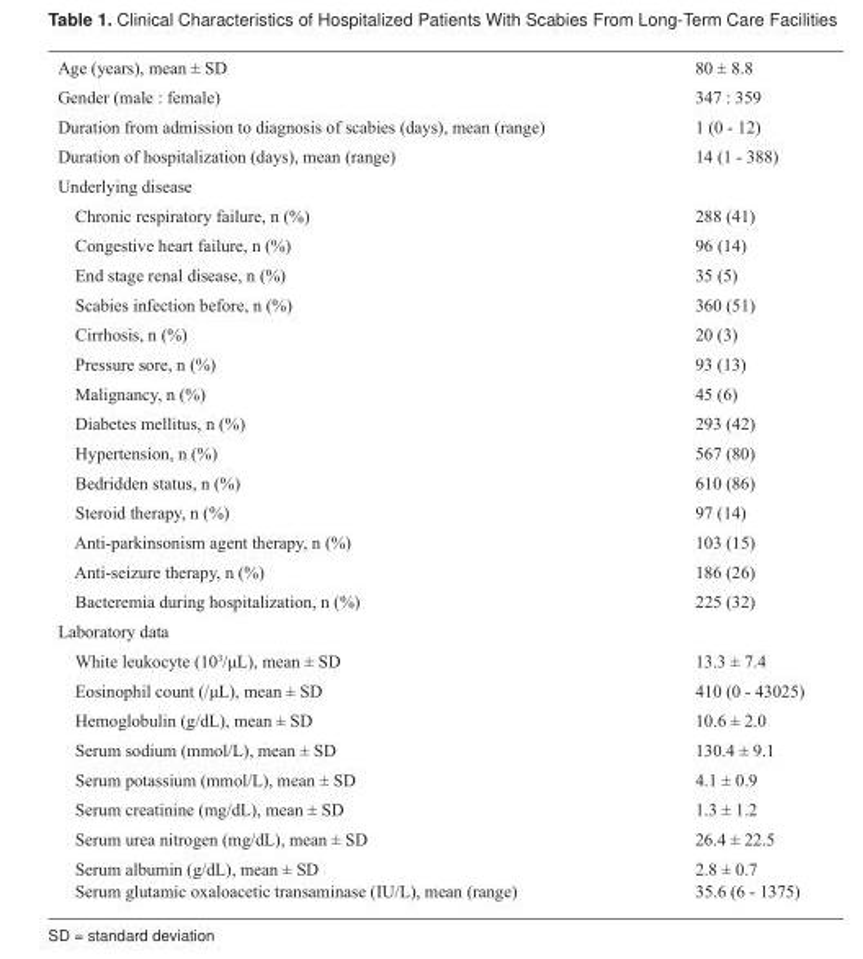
<table><tbody><tr><td>Age (years), mean ± SD</td><td>80 ± 8.8</td></tr><tr><td>Gender (male : female)</td><td>347 : 359</td></tr><tr><td>Duration from admission to diagnosis of scabies (days), mean (range)</td><td>1 (0 - 12)</td></tr><tr><td>Duration of hospitalization (days), mean (range)</td><td>14 (1 - 388)</td></tr><tr><td colspan="2">Underlying disease</td></tr><tr><td>Chronic respiratory failure, n (%)</td><td>288 (41)</td></tr><tr><td>Congestive heart failure, n (%)</td><td>96 (14)</td></tr><tr><td>End stage renal disease, n (%)</td><td>35 (5)</td></tr><tr><td>Scabies infection before, n (%)</td><td>360 (51)</td></tr><tr><td>Cirrhosis, n (%)</td><td>20 (3)</td></tr><tr><td>Pressure sore, n (%)</td><td>93 (13)</td></tr><tr><td>Malignancy, n (%)</td><td>45 (6)</td></tr><tr><td>Diabetes mellitus, n (%)</td><td>293 (42)</td></tr><tr><td>Hypertension, n (%)</td><td>567 (80)</td></tr><tr><td>Bedridden status, n (%)</td><td>610 (86)</td></tr><tr><td>Steroid therapy, n (%)</td><td>97 (14)</td></tr><tr><td>Anti-parkinsonism agent therapy, n (%)</td><td>103 (15)</td></tr><tr><td>Anti-seizure therapy, n (%)</td><td>186 (26)</td></tr><tr><td>Bacteremia during hospitalization, n (%)</td><td>225 (32)</td></tr><tr><td colspan="2">Laboratory data</td></tr><tr><td>White leukocyte (10<sup>3</sup>/μL), mean ± SD</td><td>13.3 ± 7.4</td></tr><tr><td>Eosinophil count (/μL), mean ± SD</td><td>410 (0 - 43025)</td></tr><tr><td>Hemoglobulin (g/dL), mean ± SD</td><td>10.6 ± 2.0</td></tr><tr><td>Serum sodium (mmol/L), mean ± SD</td><td>130.4 ± 9.1</td></tr><tr><td>Serum potassium (mmol/L), mean ± SD</td><td>4.1 ± 0.9</td></tr><tr><td>Serum creatinine (mg/dL), mean ± SD</td><td>1.3 ± 1.2</td></tr><tr><td>Serum urea nitrogen (mg/dL), mean ± SD</td><td>26.4 ± 22.5</td></tr><tr><td>Serum albumin (g/dL), mean ± SD</td><td>2.8 ± 0.7</td></tr><tr><td>Serum glutamic oxaloacetic transaminase (IU/L), mean (range)</td><td>35.6 (6 - 1375)</td></tr></tbody></table>